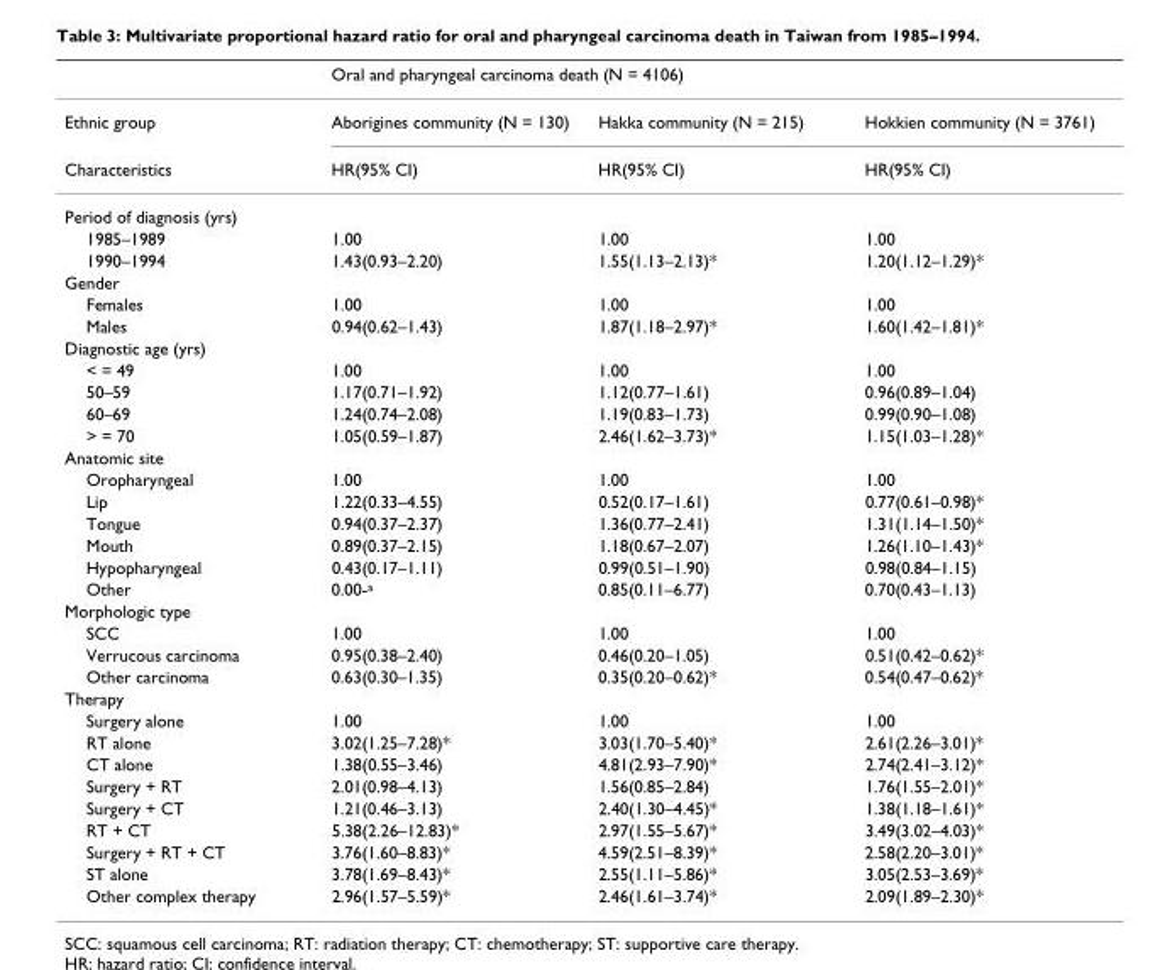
<table><thead><tr><td rowspan="2">Ethnic group</td><td colspan="3">Oral and pharyngeal carcinoma death (N = 4106)</td></tr><tr><td>Aborigines community (N = 130)</td><td>Hakka community (N = 215)</td><td>Hokkien community (N = 3761)</td></tr></thead><tbody><tr><td>Characteristics</td><td>HR(95% CI)</td><td>HR(95% CI)</td><td>HR(95% CI)</td></tr><tr><td colspan="4">Period of diagnosis (yrs)</td></tr><tr><td>1985–1989</td><td>1.00</td><td>1.00</td><td>1.00</td></tr><tr><td>1990–1994</td><td>1.43(0.93–2.20)</td><td>1.55(1.13–2.13)*</td><td>1.20(1.12–1.29)*</td></tr><tr><td colspan="4">Gender</td></tr><tr><td>Females</td><td>1.00</td><td>1.00</td><td>1.00</td></tr><tr><td>Males</td><td>0.94(0.62–1.43)</td><td>1.87(1.18–2.97)*</td><td>1.60(1.42–1.81)*</td></tr><tr><td colspan="4">Diagnostic age (yrs)</td></tr><tr><td>&lt; = 49</td><td>1.00</td><td>1.00</td><td>1.00</td></tr><tr><td>50–59</td><td>1.17(0.71–1.92)</td><td>1.12(0.77–1.61)</td><td>0.96(0.89–1.04)</td></tr><tr><td>60–69</td><td>1.24(0.74–2.08)</td><td>1.19(0.83–1.73)</td><td>0.99(0.90–1.08)</td></tr><tr><td>&gt; = 70</td><td>1.05(0.59–1.87)</td><td>2.46(1.62–3.73)*</td><td>1.15(1.03–1.28)*</td></tr><tr><td colspan="4">Anatomic site</td></tr><tr><td>Oropharyngeal</td><td>1.00</td><td>1.00</td><td>1.00</td></tr><tr><td>Lip</td><td>1.22(0.33–4.55)</td><td>0.52(0.17–1.61)</td><td>0.77(0.61–0.98)*</td></tr><tr><td>Tongue</td><td>0.94(0.37–2.37)</td><td>1.36(0.77–2.41)</td><td>1.31(1.14–1.50)*</td></tr><tr><td>Mouth</td><td>0.89(0.37–2.15)</td><td>1.18(0.67–2.07)</td><td>1.26(1.10–1.43)*</td></tr><tr><td>Hypopharyngeal</td><td>0.43(0.17–1.11)</td><td>0.99(0.51–1.90)</td><td>0.98(0.84–1.15)</td></tr><tr><td>Other</td><td>0.00-<sup>a</sup></td><td>0.85(0.11–6.77)</td><td>0.70(0.43–1.13)</td></tr><tr><td colspan="4">Morphologic type</td></tr><tr><td>SCC</td><td>1.00</td><td>1.00</td><td>1.00</td></tr><tr><td>Verrucous carcinoma</td><td>0.95(0.38–2.40)</td><td>0.46(0.20–1.05)</td><td>0.51(0.42–0.62)*</td></tr><tr><td>Other carcinoma</td><td>0.63(0.30–1.35)</td><td>0.35(0.20–0.62)*</td><td>0.54(0.47–0.62)*</td></tr><tr><td colspan="4">Therapy</td></tr><tr><td>Surgery alone</td><td>1.00</td><td>1.00</td><td>1.00</td></tr><tr><td>RT alone</td><td>3.02(1.25–7.28)*</td><td>3.03(1.70–5.40)*</td><td>2.61(2.26–3.01)*</td></tr><tr><td>CT alone</td><td>1.38(0.55–3.46)</td><td>4.81(2.93–7.90)*</td><td>2.74(2.41–3.12)*</td></tr><tr><td>Surgery + RT</td><td>2.01(0.98–4.13)</td><td>1.56(0.85–2.84)</td><td>1.76(1.55–2.01)*</td></tr><tr><td>Surgery + CT</td><td>1.21(0.46–3.13)</td><td>2.40(1.30–4.45)*</td><td>1.38(1.18–1.61)*</td></tr><tr><td>RT + CT</td><td>5.38(2.26–12.83)*</td><td>2.97(1.55–5.67)*</td><td>3.49(3.02–4.03)*</td></tr><tr><td>Surgery + RT + CT</td><td>3.76(1.60–8.83)*</td><td>4.59(2.51–8.39)*</td><td>2.58(2.20–3.01)*</td></tr><tr><td>ST alone</td><td>3.78(1.69–8.43)*</td><td>2.55(1.11–5.86)*</td><td>3.05(2.53–3.69)*</td></tr><tr><td>Other complex therapy</td><td>2.96(1.57–5.59)*</td><td>2.46(1.61–3.74)*</td><td>2.09(1.89–2.30)*</td></tr></tbody></table>